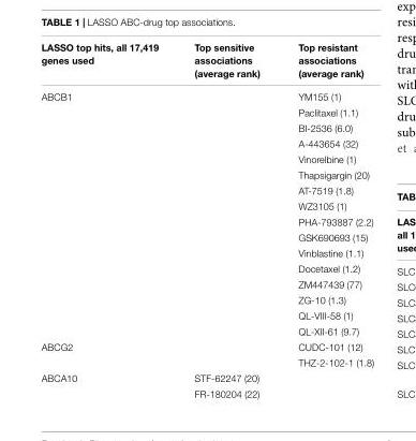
<table><thead><tr><td>LASSO top hits, all 17,419 genes used</td><td>Top sensitive associations (average rank)</td><td>Top resistant associations (average rank)</td></tr></thead><tbody><tr><td rowspan="16">ABCB1</td><td></td><td>YM155 (1)</td></tr><tr><td></td><td>Paclitaxel (1.1)</td></tr><tr><td></td><td>BI-2536 (6.0)</td></tr><tr><td></td><td>A-443654 (32)</td></tr><tr><td></td><td>Vinorelbine (1)</td></tr><tr><td></td><td>Thapsigargin (20)</td></tr><tr><td></td><td>AT-7519 (1.8)</td></tr><tr><td></td><td>WZ3105 (1)</td></tr><tr><td></td><td>PHA-793887 (2.2)</td></tr><tr><td></td><td>GSK690693 (15)</td></tr><tr><td></td><td>Vinblastine (1.1)</td></tr><tr><td></td><td>Docetaxel (1.2)</td></tr><tr><td></td><td>ZM447439 (77)</td></tr><tr><td></td><td>ZG-10 (1.3)</td></tr><tr><td></td><td>QL-VIII-58 (1)</td></tr><tr><td></td><td>QL-XII-61 (9.7)</td></tr><tr><td rowspan="2">ABCG2</td><td></td><td>CUDC-101 (12)</td></tr><tr><td></td><td>THZ-2-102-1 (1.8)</td></tr><tr><td rowspan="2">ABCA10</td><td>STF-62247 (20)</td><td></td></tr><tr><td>FR-180204 (22)</td><td></td></tr></tbody></table>